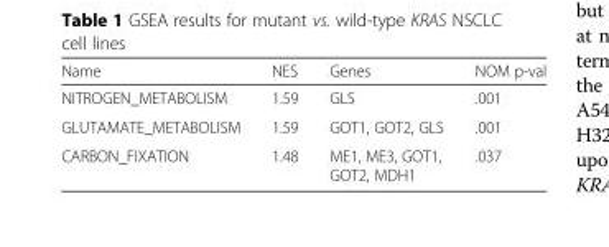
<table><thead><tr><td>Name</td><td>NES</td><td>Genes</td><td>NOM p-val</td></tr></thead><tbody><tr><td>NITROGEN_METABOLISM</td><td>1.59</td><td>GLS</td><td>.001</td></tr><tr><td>GLUTAMATE_METABOLISM</td><td>1.59</td><td>GOT1, GOT2, GLS</td><td>.001</td></tr><tr><td>CARBON_FIXATION</td><td>1.48</td><td>ME1, ME3, GOT1, GOT2, MDH1</td><td>.037</td></tr></tbody></table>